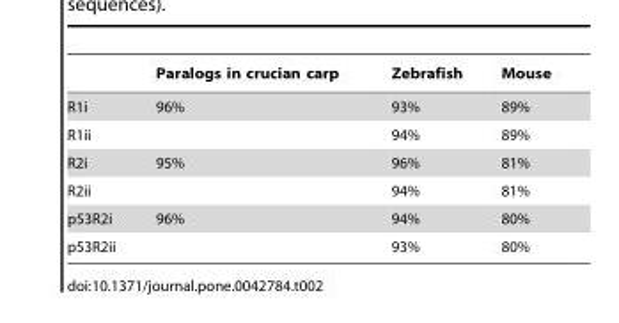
<table><thead><tr><td></td><td>Paralogs in crucian carp</td><td>Zebrafish</td><td>Mouse</td></tr></thead><tbody><tr><td>R1i</td><td>96%</td><td>93%</td><td>89%</td></tr><tr><td>R1ii</td><td></td><td>94%</td><td>89%</td></tr><tr><td>R2i</td><td>95%</td><td>96%</td><td>81%</td></tr><tr><td>R2ii</td><td></td><td>94%</td><td>81%</td></tr><tr><td>p53R2i</td><td>96%</td><td>94%</td><td>80%</td></tr><tr><td>p53R2ii</td><td></td><td>93%</td><td>80%</td></tr></tbody></table>